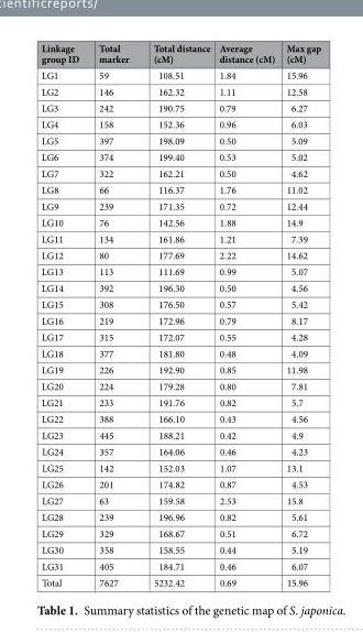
<table><thead><tr><td>Linkage group ID</td><td>Total marker</td><td>Total distance (cM)</td><td>Average distance (cM)</td><td>Max gap (cM)</td></tr></thead><tbody><tr><td>LG1</td><td>59</td><td>108.51</td><td>1.84</td><td>15.96</td></tr><tr><td>LG2</td><td>146</td><td>162.32</td><td>1.11</td><td>12.58</td></tr><tr><td>LG3</td><td>242</td><td>190.75</td><td>0.79</td><td>6.27</td></tr><tr><td>LG4</td><td>158</td><td>152.36</td><td>0.96</td><td>6.03</td></tr><tr><td>LG5</td><td>397</td><td>198.09</td><td>0.50</td><td>5.09</td></tr><tr><td>LG6</td><td>374</td><td>199.40</td><td>0.53</td><td>5.02</td></tr><tr><td>LG7</td><td>322</td><td>162.21</td><td>0.50</td><td>4.62</td></tr><tr><td>LG8</td><td>66</td><td>116.37</td><td>1.76</td><td>11.02</td></tr><tr><td>LG9</td><td>239</td><td>171.35</td><td>0.72</td><td>12.44</td></tr><tr><td>LG10</td><td>76</td><td>142.56</td><td>1.88</td><td>14.9</td></tr><tr><td>LG11</td><td>134</td><td>161.86</td><td>1.21</td><td>7.39</td></tr><tr><td>LG12</td><td>80</td><td>177.69</td><td>2.22</td><td>14.62</td></tr><tr><td>LG13</td><td>113</td><td>111.69</td><td>0.99</td><td>5.07</td></tr><tr><td>LG14</td><td>392</td><td>196.30</td><td>0.50</td><td>4.56</td></tr><tr><td>LG15</td><td>308</td><td>176.50</td><td>0.57</td><td>5.42</td></tr><tr><td>LG16</td><td>219</td><td>172.96</td><td>0.79</td><td>8.17</td></tr><tr><td>LG17</td><td>315</td><td>172.07</td><td>0.55</td><td>4.28</td></tr><tr><td>LG18</td><td>377</td><td>181.80</td><td>0.48</td><td>4.09</td></tr><tr><td>LG19</td><td>226</td><td>192.90</td><td>0.85</td><td>11.98</td></tr><tr><td>LG20</td><td>224</td><td>179.28</td><td>0.80</td><td>7.81</td></tr><tr><td>LG21</td><td>233</td><td>191.76</td><td>0.82</td><td>5.7</td></tr><tr><td>LG22</td><td>388</td><td>166.10</td><td>0.43</td><td>4.56</td></tr><tr><td>LG23</td><td>445</td><td>188.21</td><td>0.42</td><td>4.9</td></tr><tr><td>LG24</td><td>357</td><td>164.06</td><td>0.46</td><td>4.23</td></tr><tr><td>LG25</td><td>142</td><td>152.03</td><td>1.07</td><td>13.1</td></tr><tr><td>LG26</td><td>201</td><td>174.82</td><td>0.87</td><td>4.53</td></tr><tr><td>LG27</td><td>63</td><td>159.58</td><td>2.53</td><td>15.8</td></tr><tr><td>LG28</td><td>239</td><td>196.96</td><td>0.82</td><td>5.61</td></tr><tr><td>LG29</td><td>329</td><td>168.67</td><td>0.51</td><td>6.72</td></tr><tr><td>LG30</td><td>358</td><td>158.55</td><td>0.44</td><td>5.19</td></tr><tr><td>LG31</td><td>405</td><td>184.71</td><td>0.46</td><td>6.07</td></tr><tr><td>Total</td><td>7627</td><td>5232.42</td><td>0.69</td><td>15.96</td></tr></tbody></table>